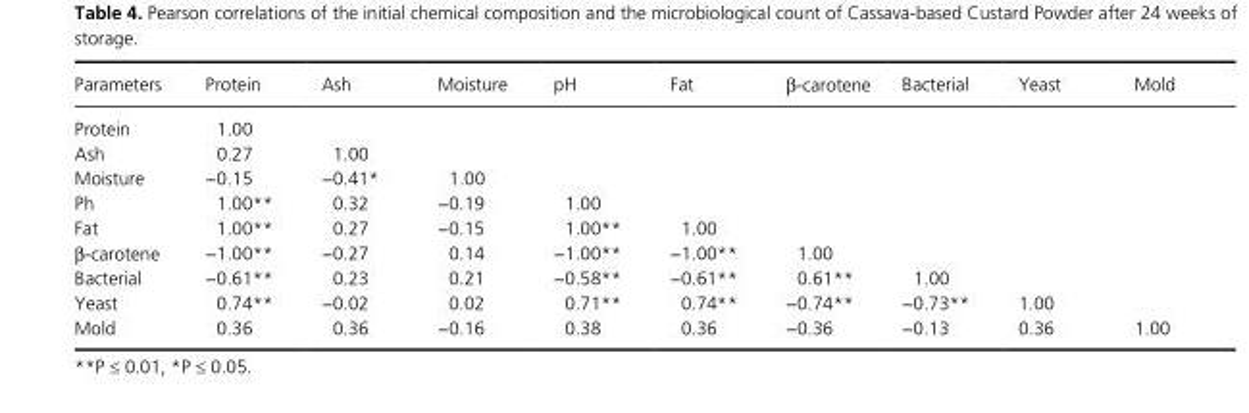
<table><thead><tr><td>Parameters</td><td>Protein</td><td>Ash</td><td>Moisture</td><td>pH</td><td>Fat</td><td>β- carotene</td><td>Bacterial</td><td>Yeast</td><td>Mold</td></tr></thead><tbody><tr><td>Protein</td><td>1.00</td><td></td><td></td><td></td><td></td><td></td><td></td><td></td><td></td></tr><tr><td>Ash</td><td>0.27</td><td>1.00</td><td></td><td></td><td></td><td></td><td></td><td></td><td></td></tr><tr><td>Moisture</td><td>−0.15</td><td>−0.41*</td><td>1.00</td><td></td><td></td><td></td><td></td><td></td><td></td></tr><tr><td>Ph</td><td>1.00**</td><td>0.32</td><td>−0.19</td><td>1.00</td><td></td><td></td><td></td><td></td><td></td></tr><tr><td>Fat</td><td>1.00**</td><td>0.27</td><td>−0.15</td><td>1.00**</td><td>1.00</td><td></td><td></td><td></td><td></td></tr><tr><td>β- carotene</td><td>−1.00**</td><td>−0.27</td><td>0.14</td><td>−1.00**</td><td>−1.00**</td><td>1.00</td><td></td><td></td><td></td></tr><tr><td>Bacterial</td><td>−0.61**</td><td>0.23</td><td>0.21</td><td>−0.58**</td><td>−0.61**</td><td>0.61**</td><td>1.00</td><td></td><td></td></tr><tr><td>Yeast</td><td>0.74**</td><td>−0.02</td><td>0.02</td><td>0.71**</td><td>0.74**</td><td>−0.74**</td><td>−0.73**</td><td>1.00</td><td></td></tr><tr><td>Mold</td><td>0.36</td><td>0.36</td><td>−0.16</td><td>0.38</td><td>0.36</td><td>−0.36</td><td>−0.13</td><td>0.36</td><td>1.00</td></tr></tbody></table>